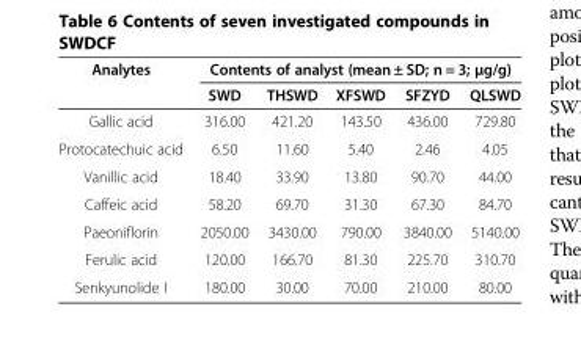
<table><thead><tr><td rowspan="2">Analytes</td><td colspan="5">Contents of analyst (mean ± SD; n = 3; μg/g)</td></tr><tr><td>SWD</td><td>THSWD</td><td>XFSWD</td><td>SFZYD</td><td>QLSWD</td></tr></thead><tbody><tr><td>Gallic acid</td><td>316.00</td><td>421.20</td><td>143.50</td><td>436.00</td><td>729.80</td></tr><tr><td>Protocatechuic acid</td><td>6.50</td><td>11.60</td><td>5.40</td><td>2.46</td><td>4.05</td></tr><tr><td>Vanillic acid</td><td>18.40</td><td>33.90</td><td>13.80</td><td>90.70</td><td>44.00</td></tr><tr><td>Caffeic acid</td><td>58.20</td><td>69.70</td><td>31.30</td><td>67.30</td><td>84.70</td></tr><tr><td>Paeoniflorin</td><td>2050.00</td><td>3430.00</td><td>790.00</td><td>3840.00</td><td>5140.00</td></tr><tr><td>Ferulic acid</td><td>120.00</td><td>166.70</td><td>81.30</td><td>225.70</td><td>310.70</td></tr><tr><td>Senkyunolide I</td><td>180.00</td><td>30.00</td><td>70.00</td><td>210.00</td><td>80.00</td></tr></tbody></table>